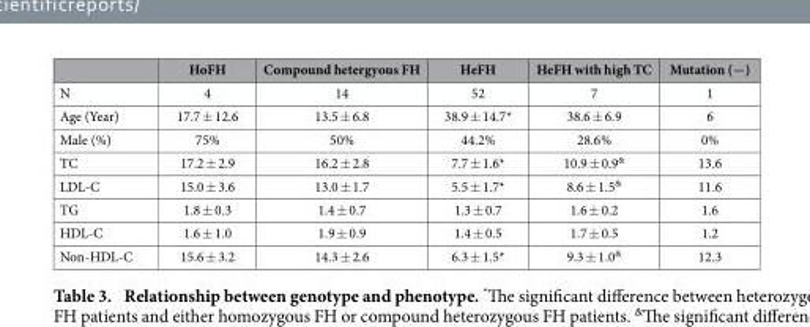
<table><thead><tr><td></td><td>HoFH</td><td>Compound hetergyous FH</td><td>HeFH</td><td>HeFH with high TC</td><td>Mutation (−)</td></tr></thead><tbody><tr><td>N</td><td>4</td><td>14</td><td>52</td><td>7</td><td>1</td></tr><tr><td>Age (Year)</td><td>17.7 ± 12.6</td><td>13.5 ± 6.8</td><td>38.9 ± 14.7*</td><td>38.6 ± 6.9</td><td>6</td></tr><tr><td>Male (%)</td><td>75%</td><td>50%</td><td>44.2%</td><td>28.6%</td><td>0%</td></tr><tr><td>TC</td><td>17.2 ± 2.9</td><td>16.2 ± 2.8</td><td>7.7 ± 1.6*</td><td>10.9 ± 0.9&amp;</td><td>13.6</td></tr><tr><td>LDL-C</td><td>15.0 ± 3.6</td><td>13.0 ± 1.7</td><td>5.5 ± 1.7*</td><td>8.6 ± 1.5&amp;</td><td>11.6</td></tr><tr><td>TG</td><td>1.8 ± 0.3</td><td>1.4 ± 0.7</td><td>1.3 ± 0.7</td><td>1.6 ± 0.2</td><td>1.6</td></tr><tr><td>HDL-C</td><td>1.6 ± 1.0</td><td>1.9 ± 0.9</td><td>1.4 ± 0.5</td><td>1.7 ± 0.5</td><td>1.2</td></tr><tr><td>Non-HDL-C</td><td>15.6 ± 3.2</td><td>14.3 ± 2.6</td><td>6.3 ± 1.5*</td><td>9.3 ± 1.0&amp;</td><td>12.3</td></tr></tbody></table>